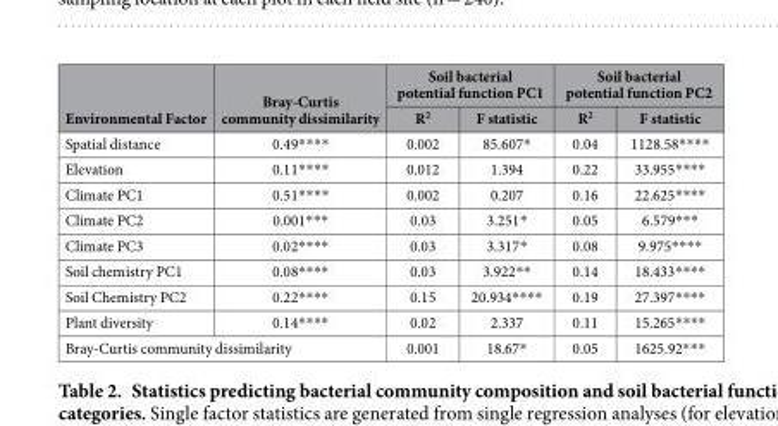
<table><thead><tr><td rowspan="2">Environmental Factor</td><td rowspan="2">Bray-Curtis community dissimilarity</td><td colspan="2">Soil bacterial potential function PC1</td><td colspan="2">Soil bacterial potential function PC2</td></tr><tr><td>R<sup>2</sup></td><td>F statistic</td><td>R<sup>2</sup></td><td>F statistic</td></tr></thead><tbody><tr><td>Spatial distance</td><td>0.49* * * *</td><td>0.002</td><td>85.607*</td><td>0.04</td><td>1128.58* * * *</td></tr><tr><td>Elevation</td><td>0.11* * * *</td><td>0.012</td><td>1.394</td><td>0.22</td><td>33.955* * * *</td></tr><tr><td>Climate PC1</td><td>0.51* * * *</td><td>0.002</td><td>0.207</td><td>0.16</td><td>22.625* * * *</td></tr><tr><td>Climate PC2</td><td>0.001* * *</td><td>0.03</td><td>3.251*</td><td>0.05</td><td>6.579* * *</td></tr><tr><td>Climate PC3</td><td>0.02* * * *</td><td>0.03</td><td>3.317*</td><td>0.08</td><td>9.975* * * *</td></tr><tr><td>Soil chemistry PC1</td><td>0.08* * * *</td><td>0.03</td><td>3.922* *</td><td>0.14</td><td>18.433* * * *</td></tr><tr><td>Soil Chemistry PC2</td><td>0.22* * * *</td><td>0.15</td><td>20.934* * * *</td><td>0.19</td><td>27.397* * * *</td></tr><tr><td>Plant diversity</td><td>0.14* * * *</td><td>0.02</td><td>2.337</td><td>0.11</td><td>15.265* * * *</td></tr><tr><td colspan="2">Bray-Curtis community dissimilarity</td><td>0.001</td><td>18.67*</td><td>0.05</td><td>1625.92* * *</td></tr></tbody></table>